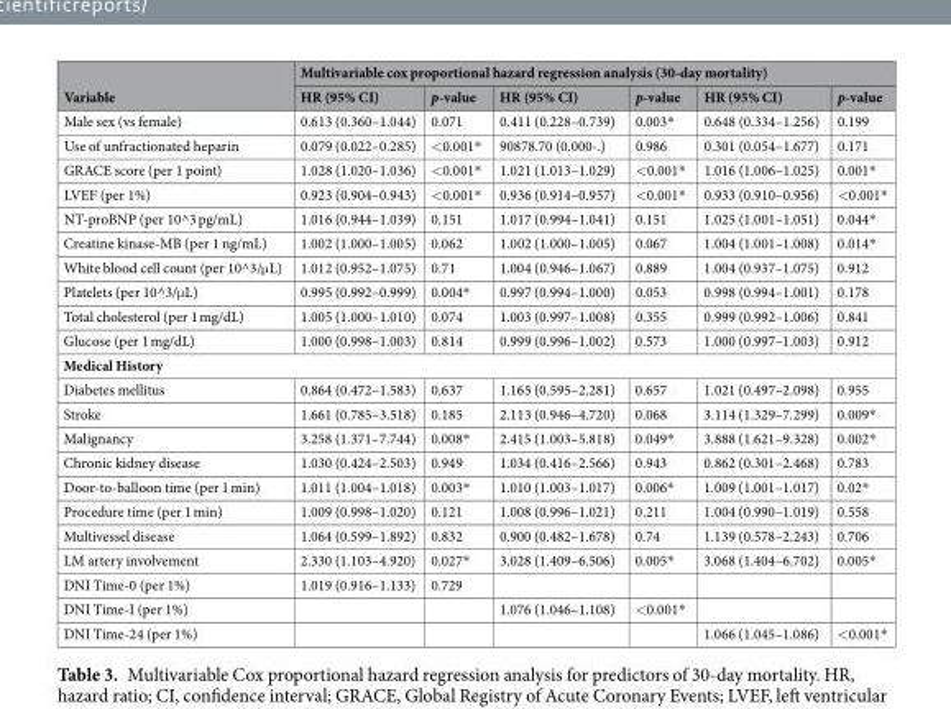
<table><thead><tr><td rowspan="2">Variable</td><td colspan="6">Multivariable cox proportional hazard regression analysis (30-day mortality)</td></tr><tr><td>HR (95% CI)</td><td>p-value</td><td>HR (95% CI)</td><td>p-value</td><td>HR (95% CI)</td><td>p-value</td></tr></thead><tbody><tr><td>Male sex (vs female)</td><td>0.613 (0.360–1.044)</td><td>0.071</td><td>0.411 (0.228–0.739)</td><td>0.003*</td><td>0.648 (0.334–1.256)</td><td>0.199</td></tr><tr><td>Use of unfractionated heparin</td><td>0.079 (0.022–0.285)</td><td>&lt;0.001*</td><td>90878.70 (0.000-.)</td><td>0.986</td><td>0.301 (0.054–1.677)</td><td>0.171</td></tr><tr><td>GRACE score (per 1 point)</td><td>1.028 (1.020–1.036)</td><td>&lt;0.001*</td><td>1.021 (1.013–1.029)</td><td>&lt;0.001*</td><td>1.016 (1.006–1.025)</td><td>0.001*</td></tr><tr><td>LVEF (per 1%)</td><td>0.923 (0.904–0.943)</td><td>&lt;0.001*</td><td>0.936 (0.914–0.957)</td><td>&lt;0.001*</td><td>0.933 (0.910–0.956)</td><td>&lt;0.001*</td></tr><tr><td>NT-proBNP (per 10^3 pg/mL)</td><td>1.016 (0.944–1.039)</td><td>0.151</td><td>1.017 (0.994–1.041)</td><td>0.151</td><td>1.025 (1.001–1.051)</td><td>0.044*</td></tr><tr><td>Creatine kinase-MB (per 1 ng/mL)</td><td>1.002 (1.000–1.005)</td><td>0.062</td><td>1.002 (1.000–1.005)</td><td>0.067</td><td>1.004 (1.001–1.008)</td><td>0.014*</td></tr><tr><td>White blood cell count (per 10^3/μL)</td><td>1.012 (0.952–1.075)</td><td>0.71</td><td>1.004 (0.946–1.067)</td><td>0.889</td><td>1.004 (0.937–1.075)</td><td>0.912</td></tr><tr><td>Platelets (per 10^3/μL)</td><td>0.995 (0.992–0.999)</td><td>0.004*</td><td>0.997 (0.994–1.000)</td><td>0.053</td><td>0.998 (0.994–1.001)</td><td>0.178</td></tr><tr><td>Total cholesterol (per 1 mg/dL)</td><td>1.005 (1.000–1.010)</td><td>0.074</td><td>1.003 (0.997–1.008)</td><td>0.355</td><td>0.999 (0.992–1.006)</td><td>0.841</td></tr><tr><td>Glucose (per 1 mg/dL)</td><td>1.000 (0.998–1.003)</td><td>0.814</td><td>0.999 (0.996–1.002)</td><td>0.573</td><td>1.000 (0.997–1.003)</td><td>0.912</td></tr><tr><td colspan="7">Medical History</td></tr><tr><td>Diabetes mellitus</td><td>0.864 (0.472–1.583)</td><td>0.637</td><td>1.165 (0.595–2.281)</td><td>0.657</td><td>1.021 (0.497–2.098)</td><td>0.955</td></tr><tr><td>Stroke</td><td>1.661 (0.785–3.518)</td><td>0.185</td><td>2.113 (0.946–4.720)</td><td>0.068</td><td>3.114 (1.329–7.299)</td><td>0.009*</td></tr><tr><td>Malignancy</td><td>3.258 (1.371–7.744)</td><td>0.008*</td><td>2.415 (1.003–5.818)</td><td>0.049*</td><td>3.888 (1.621–9.328)</td><td>0.002*</td></tr><tr><td>Chronic kidney disease</td><td>1.030 (0.424–2.503)</td><td>0.949</td><td>1.034 (0.416–2.566)</td><td>0.943</td><td>0.862 (0.301–2.468)</td><td>0.783</td></tr><tr><td>Door-to-balloon time (per 1 min)</td><td>1.011 (1.004–1.018)</td><td>0.003*</td><td>1.010 (1.003–1.017)</td><td>0.006*</td><td>1.009 (1.001–1.017)</td><td>0.02*</td></tr><tr><td>Procedure time (per 1 min)</td><td>1.009 (0.998–1.020)</td><td>0.121</td><td>1.008 (0.996–1.021)</td><td>0.211</td><td>1.004 (0.990–1.019)</td><td>0.558</td></tr><tr><td>Multivessel disease</td><td>1.064 (0.599–1.892)</td><td>0.832</td><td>0.900 (0.482–1.678)</td><td>0.74</td><td>1.139 (0.578–2.243)</td><td>0.706</td></tr><tr><td>LM artery involvement</td><td>2.330 (1.103–4.920)</td><td>0.027*</td><td>3.028 (1.409–6.506)</td><td>0.005*</td><td>3.068 (1.404–6.702)</td><td>0.005*</td></tr><tr><td>DNI Time-0 (per 1%)</td><td>1.019 (0.916–1.133)</td><td>0.729</td><td></td><td></td><td></td><td></td></tr><tr><td>DNI Time-I (per 1%)</td><td></td><td></td><td>1.076 (1.046–1.108)</td><td>&lt;0.001*</td><td></td><td></td></tr><tr><td>DNI Time-24 (per 1%)</td><td></td><td></td><td></td><td></td><td>1.066 (1.045–1.086)</td><td>&lt;0.001*</td></tr></tbody></table>